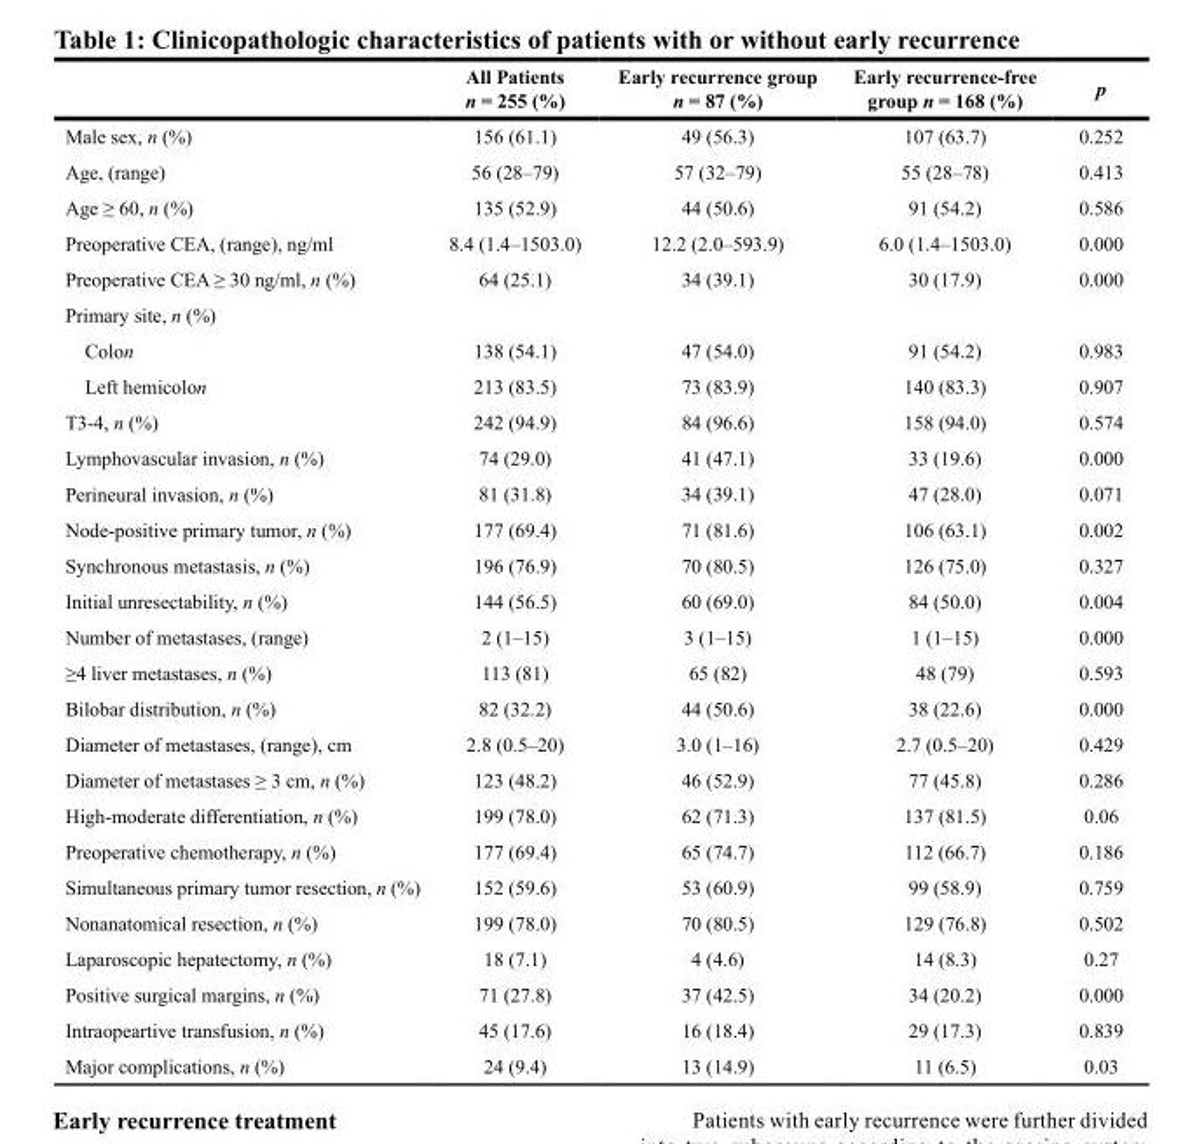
<table><thead><tr><td></td><td>All Patients n = 255 (%)</td><td>Early recurrence group n = 87 (%)</td><td>Early recurrence-free group n = 168 (%)</td><td>p</td></tr></thead><tbody><tr><td>Male sex, n (%)</td><td>156 (61.1)</td><td>49 (56.3)</td><td>107 (63.7)</td><td>0.252</td></tr><tr><td>Age, (range)</td><td>56 (28–79)</td><td>57 (32–79)</td><td>55 (28–78)</td><td>0.413</td></tr><tr><td>Age ≥ 60, n (%)</td><td>135 (52.9)</td><td>44 (50.6)</td><td>91 (54.2)</td><td>0.586</td></tr><tr><td>Preoperative CEA, (range), ng/ml</td><td>8.4 (1.4–1503.0)</td><td>12.2 (2.0–593.9)</td><td>6.0 (1.4–1503.0)</td><td>0.000</td></tr><tr><td>Preoperative CEA ≥ 30 ng/ml, n (%)</td><td>64 (25.1)</td><td>34 (39.1)</td><td>30 (17.9)</td><td>0.000</td></tr><tr><td colspan="5">Primary site, n (%)</td></tr><tr><td>Colon</td><td>138 (54.1)</td><td>47 (54.0)</td><td>91 (54.2)</td><td>0.983</td></tr><tr><td>Left hemicolon</td><td>213 (83.5)</td><td>73 (83.9)</td><td>140 (83.3)</td><td>0.907</td></tr><tr><td>T3-4, n (%)</td><td>242 (94.9)</td><td>84 (96.6)</td><td>158 (94.0)</td><td>0.574</td></tr><tr><td>Lymphovascular invasion, n (%)</td><td>74 (29.0)</td><td>41 (47.1)</td><td>33 (19.6)</td><td>0.000</td></tr><tr><td>Perineural invasion, n (%)</td><td>81 (31.8)</td><td>34 (39.1)</td><td>47 (28.0)</td><td>0.071</td></tr><tr><td>Node-positive primary tumor, n (%)</td><td>177 (69.4)</td><td>71 (81.6)</td><td>106 (63.1)</td><td>0.002</td></tr><tr><td>Synchronous metastasis, n (%)</td><td>196 (76.9)</td><td>70 (80.5)</td><td>126 (75.0)</td><td>0.327</td></tr><tr><td>Initial unresectability, n (%)</td><td>144 (56.5)</td><td>60 (69.0)</td><td>84 (50.0)</td><td>0.004</td></tr><tr><td>Number of metastases, (range)</td><td>2 (1–15)</td><td>3 (1–15)</td><td>1 (1–15)</td><td>0.000</td></tr><tr><td>≥4 liver metastases, n (%)</td><td>113 (81)</td><td>65 (82)</td><td>48 (79)</td><td>0.593</td></tr><tr><td>Bilobar distribution, n (%)</td><td>82 (32.2)</td><td>44 (50.6)</td><td>38 (22.6)</td><td>0.000</td></tr><tr><td>Diameter of metastases, (range), cm</td><td>2.8 (0.5–20)</td><td>3.0 (1–16)</td><td>2.7 (0.5–20)</td><td>0.429</td></tr><tr><td>Diameter of metastases ≥ 3 cm, n (%)</td><td>123 (48.2)</td><td>46 (52.9)</td><td>77 (45.8)</td><td>0.286</td></tr><tr><td>High-moderate differentiation, n (%)</td><td>199 (78.0)</td><td>62 (71.3)</td><td>137 (81.5)</td><td>0.06</td></tr><tr><td>Preoperative chemotherapy, n (%)</td><td>177 (69.4)</td><td>65 (74.7)</td><td>112 (66.7)</td><td>0.186</td></tr><tr><td>Simultaneous primary tumor resection, n (%)</td><td>152 (59.6)</td><td>53 (60.9)</td><td>99 (58.9)</td><td>0.759</td></tr><tr><td>Nonanatomical resection, n (%)</td><td>199 (78.0)</td><td>70 (80.5)</td><td>129 (76.8)</td><td>0.502</td></tr><tr><td>Laparoscopic hepatectomy, n (%)</td><td>18 (7.1)</td><td>4 (4.6)</td><td>14 (8.3)</td><td>0.27</td></tr><tr><td>Positive surgical margins, n (%)</td><td>71 (27.8)</td><td>37 (42.5)</td><td>34 (20.2)</td><td>0.000</td></tr><tr><td>Intraopeartive transfusion, n (%)</td><td>45 (17.6)</td><td>16 (18.4)</td><td>29 (17.3)</td><td>0.839</td></tr><tr><td>Major complications, n (%)</td><td>24 (9.4)</td><td>13 (14.9)</td><td>11 (6.5)</td><td>0.03</td></tr></tbody></table>